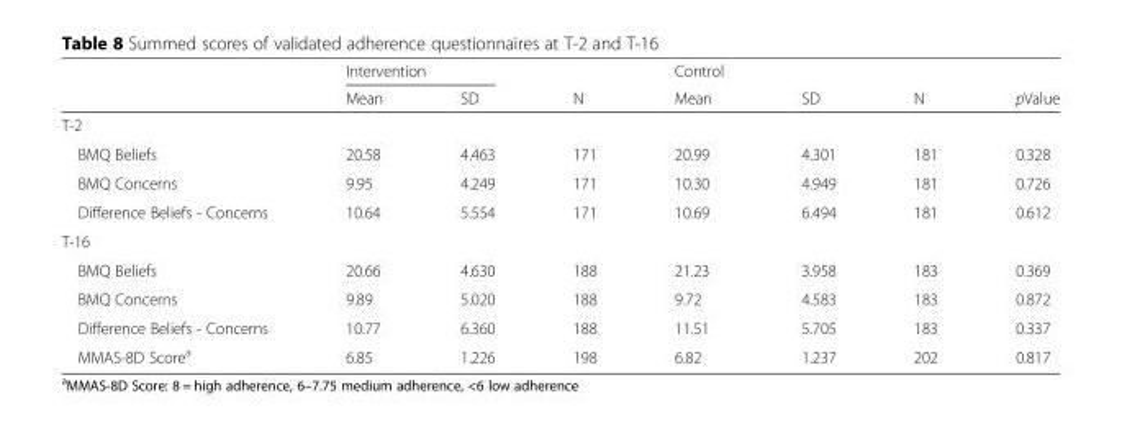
<table><thead><tr><td rowspan="2"></td><td colspan="2">Intervention</td><td rowspan="2">N</td><td rowspan="2">Control Mean</td><td rowspan="2">SD</td><td rowspan="2">N</td><td rowspan="2">pValue</td></tr><tr><td>Mean</td><td>SD</td></tr></thead><tbody><tr><td colspan="8">T-2</td></tr><tr><td>BMQ Beliefs</td><td>20.58</td><td>4.463</td><td>171</td><td>20.99</td><td>4.301</td><td>181</td><td>0.328</td></tr><tr><td>BMQ Concerns</td><td>9.95</td><td>4.249</td><td>171</td><td>10.30</td><td>4.949</td><td>181</td><td>0.726</td></tr><tr><td>Difference Beliefs - Concerns</td><td>10.64</td><td>5.554</td><td>171</td><td>10.69</td><td>6.494</td><td>181</td><td>0.612</td></tr><tr><td colspan="8">T-16</td></tr><tr><td>BMQ Beliefs</td><td>20.66</td><td>4.630</td><td>188</td><td>21.23</td><td>3.958</td><td>183</td><td>0.369</td></tr><tr><td>BMQ Concerns</td><td>9.89</td><td>5.020</td><td>188</td><td>9.72</td><td>4.583</td><td>183</td><td>0.872</td></tr><tr><td>Difference Beliefs - Concerns</td><td>10.77</td><td>6.360</td><td>188</td><td>11.51</td><td>5.705</td><td>183</td><td>0.337</td></tr><tr><td>MMAS-8D Score<sup>a</sup></td><td>6.85</td><td>1.226</td><td>198</td><td>6.82</td><td>1.237</td><td>202</td><td>0.817</td></tr></tbody></table>